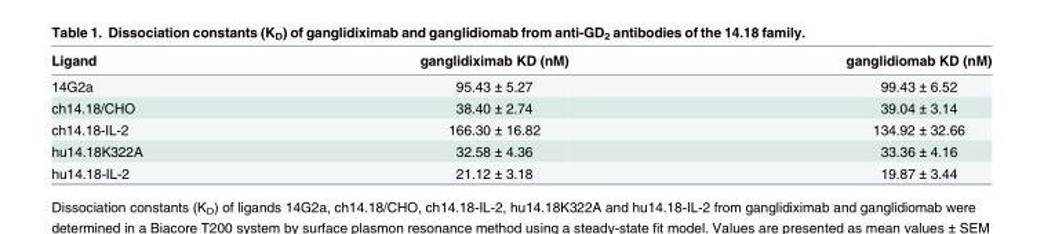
<table><thead><tr><td>Ligand</td><td>ganglidiximab KD (nM)</td><td>ganglidiomab KD (nM)</td></tr></thead><tbody><tr><td>14G2a</td><td>95.43 ± 5.27</td><td>99.43 ± 6.52</td></tr><tr><td>ch14.18/CHO</td><td>38.40 ± 2.74</td><td>39.04 ± 3.14</td></tr><tr><td>ch14.18-IL-2</td><td>166.30 ± 16.82</td><td>134.92 ± 32.66</td></tr><tr><td>hu14.18K322A</td><td>32.58 ± 4.36</td><td>33.36 ± 4.16</td></tr><tr><td>hu14.18-IL-2</td><td>21.12 ± 3.18</td><td>19.87 ± 3.44</td></tr></tbody></table>